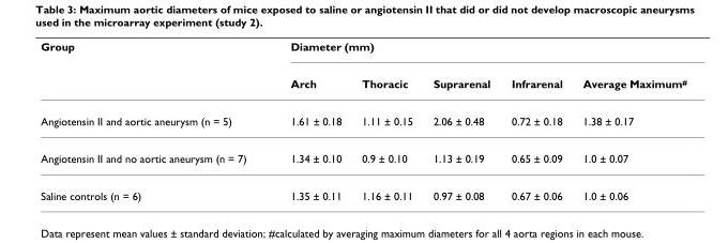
<table><thead><tr><td rowspan="2">Group</td><td colspan="5">Diameter (mm)</td></tr><tr><td>Arch</td><td>Thoracic</td><td>Suprarenal</td><td>Infrarenal</td><td>Average Maximum<sup>#</sup></td></tr></thead><tbody><tr><td>Angiotensin II and aortic aneurysm (n = 5)</td><td>1.61 ± 0.18</td><td>1.11 ± 0.15</td><td>2.06 ± 0.48</td><td>0.72 ± 0.18</td><td>1.38 ± 0.17</td></tr><tr><td>Angiotensin II and no aortic aneurysm (n = 7)</td><td>1.34 ± 0.10</td><td>0.9 ± 0.10</td><td>1.13 ± 0.19</td><td>0.65 ± 0.09</td><td>1.0 ± 0.07</td></tr><tr><td>Saline controls (n = 6)</td><td>1.35 ± 0.11</td><td>1.16 ± 0.11</td><td>0.97 ± 0.08</td><td>0.67 ± 0.06</td><td>1.0 ± 0.06</td></tr></tbody></table>